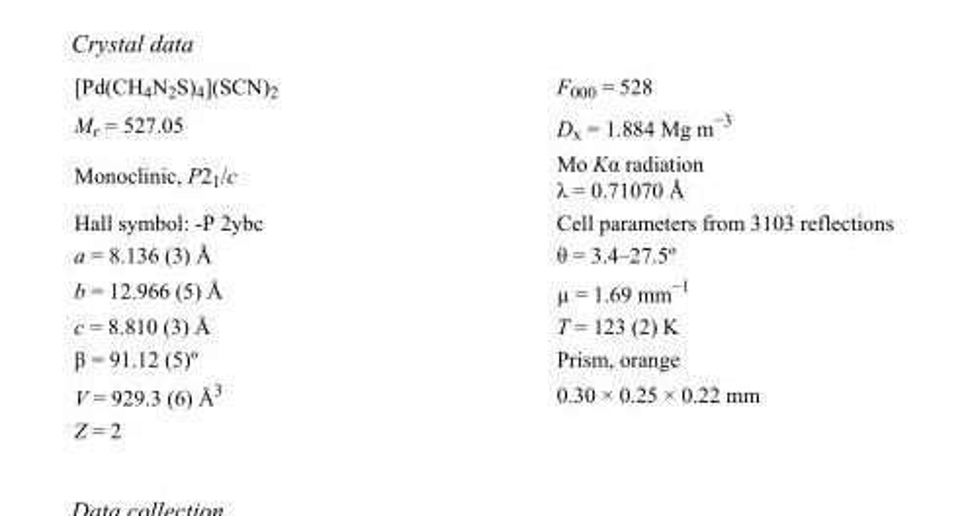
<table><tbody><tr><td>[Pd(CH<sub>4</sub>N<sub>2</sub>S)<sub>4</sub>](SCN)<sub>2</sub></td><td>F<sub>000</sub> = 528</td></tr><tr><td>M<sub>r</sub> = 527.05</td><td>D<sub>x</sub> = 1.884 Mg m<sup>−3</sup></td></tr><tr><td>Monoclinic, P2<sub>1</sub>/c</td><td>Mo Kα radiation λ = 0.71070 Å</td></tr><tr><td>Hall symbol: -P 2ybc</td><td>Cell parameters from 3103 reflections</td></tr><tr><td>a = 8.136 (3) Å</td><td>θ = 3.4–27.5º</td></tr><tr><td>b = 12.966 (5) Å</td><td>µ = 1.69 mm<sup>−1</sup></td></tr><tr><td>c = 8.810 (3) Å</td><td>T = 123 (2) K</td></tr><tr><td>β = 91.12 (5)º</td><td>Prism, orange</td></tr><tr><td>V = 929.3 (6) Å<sup>3</sup></td><td>0.30 × 0.25 × 0.22 mm</td></tr><tr><td>Z = 2</td><td></td></tr></tbody></table>